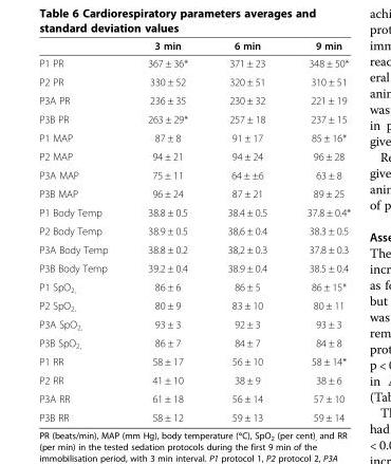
<table><thead><tr><td></td><td>3 min</td><td>6 min</td><td>9 min</td></tr></thead><tbody><tr><td>P1 PR</td><td>367 ± 36*</td><td>371 ± 23</td><td>348 ± 50*</td></tr><tr><td>P2 PR</td><td>330 ± 52</td><td>320 ± 51</td><td>310 ± 51</td></tr><tr><td>P3A PR</td><td>236 ± 35</td><td>230 ± 32</td><td>221 ± 19</td></tr><tr><td>P3B PR</td><td>263 ± 29*</td><td>257 ± 18</td><td>237 ± 15</td></tr><tr><td>P1 MAP</td><td>87 ± 8</td><td>91 ± 17</td><td>85 ± 16*</td></tr><tr><td>P2 MAP</td><td>94 ± 21</td><td>94 ± 24</td><td>96 ± 28</td></tr><tr><td>P3A MAP</td><td>75 ± 11</td><td>64 ± ±6</td><td>63 ± 8</td></tr><tr><td>P3B MAP</td><td>96 ± 24</td><td>87 ± 21</td><td>89 ± 25</td></tr><tr><td>P1 Body Temp</td><td>38.8 ± 0.5</td><td>38.4 ± 0.5</td><td>37.8 ± 0.4*</td></tr><tr><td>P2 Body Temp</td><td>38.9 ± 0.5</td><td>38,6 ± 0.4</td><td>38.3 ± 0.5</td></tr><tr><td>P3A Body Temp</td><td>38.8 ± 0.2</td><td>38,2 ± 0.3</td><td>37.8 ± 0.3</td></tr><tr><td>P3B Body Temp</td><td>39.2 ± 0.4</td><td>38.9 ± 0.4</td><td>38.5 ± 0.4</td></tr><tr><td>P1 SpO<sub>2,</sub></td><td>86 ± 6</td><td>86 ± 5</td><td>86 ± 15*</td></tr><tr><td>P2 SpO<sub>2,</sub></td><td>80 ± 9</td><td>83 ± 10</td><td>80 ± 11</td></tr><tr><td>P3A SpO<sub>2,</sub></td><td>93 ± 3</td><td>92 ± 3</td><td>93 ± 3</td></tr><tr><td>P3B SpO<sub>2,</sub></td><td>86 ± 7</td><td>84 ± 7</td><td>84 ± 8</td></tr><tr><td>P1 RR</td><td>58 ± 17</td><td>56 ± 10</td><td>58 ± 14*</td></tr><tr><td>P2 RR</td><td>41 ± 10</td><td>38 ± 9</td><td>38 ± 6</td></tr><tr><td>P3A RR</td><td>61 ± 18</td><td>56 ± 14</td><td>57 ± 10</td></tr><tr><td>P3B RR</td><td>58 ± 12</td><td>59 ± 13</td><td>59 ± 14</td></tr></tbody></table>